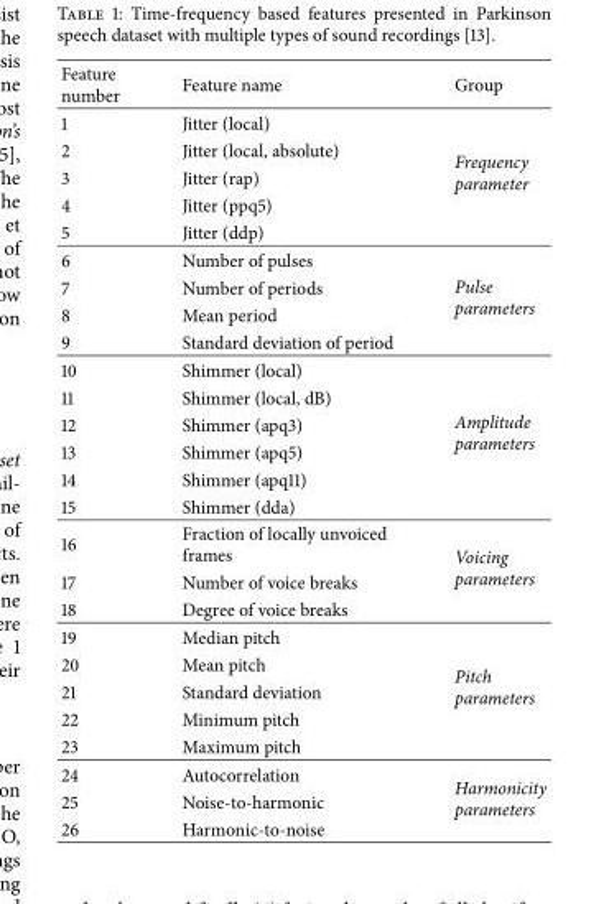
<table><thead><tr><td>Feature number</td><td>Feature name</td><td>Group</td></tr></thead><tbody><tr><td>1</td><td>Jitter (local)</td><td rowspan="5">Frequency parameter</td></tr><tr><td>2</td><td>Jitter (local, absolute)</td></tr><tr><td>3</td><td>Jitter (rap)</td></tr><tr><td>4</td><td>Jitter (ppq5)</td></tr><tr><td>5</td><td>Jitter (ddp)</td></tr><tr><td>6</td><td>Number of pulses</td><td rowspan="4">Pulse parameters</td></tr><tr><td>7</td><td>Number of periods</td></tr><tr><td>8</td><td>Mean period</td></tr><tr><td>9</td><td>Standard deviation of period</td></tr><tr><td>10</td><td>Shimmer (local)</td><td rowspan="6">Amplitude parameters</td></tr><tr><td>11</td><td>Shimmer (local, dB)</td></tr><tr><td>12</td><td>Shimmer (apq3)</td></tr><tr><td>13</td><td>Shimmer (apq5)</td></tr><tr><td>14</td><td>Shimmer (apq11)</td></tr><tr><td>15</td><td>Shimmer (dda)</td></tr><tr><td>16</td><td>Fraction of locally unvoiced frames</td><td rowspan="3">Voicing parameters</td></tr><tr><td>17</td><td>Number of voice breaks</td></tr><tr><td>18</td><td>Degree of voice breaks</td></tr><tr><td>19</td><td>Median pitch</td><td rowspan="5">Pitch parameters</td></tr><tr><td>20</td><td>Mean pitch</td></tr><tr><td>21</td><td>Standard deviation</td></tr><tr><td>22</td><td>Minimum pitch</td></tr><tr><td>23</td><td>Maximum pitch</td></tr><tr><td>24</td><td>Autocorrelation</td><td rowspan="3">Harmonicity parameters</td></tr><tr><td>25</td><td>Noise-to-harmonic</td></tr><tr><td>26</td><td>Harmonic-to-noise</td></tr></tbody></table>